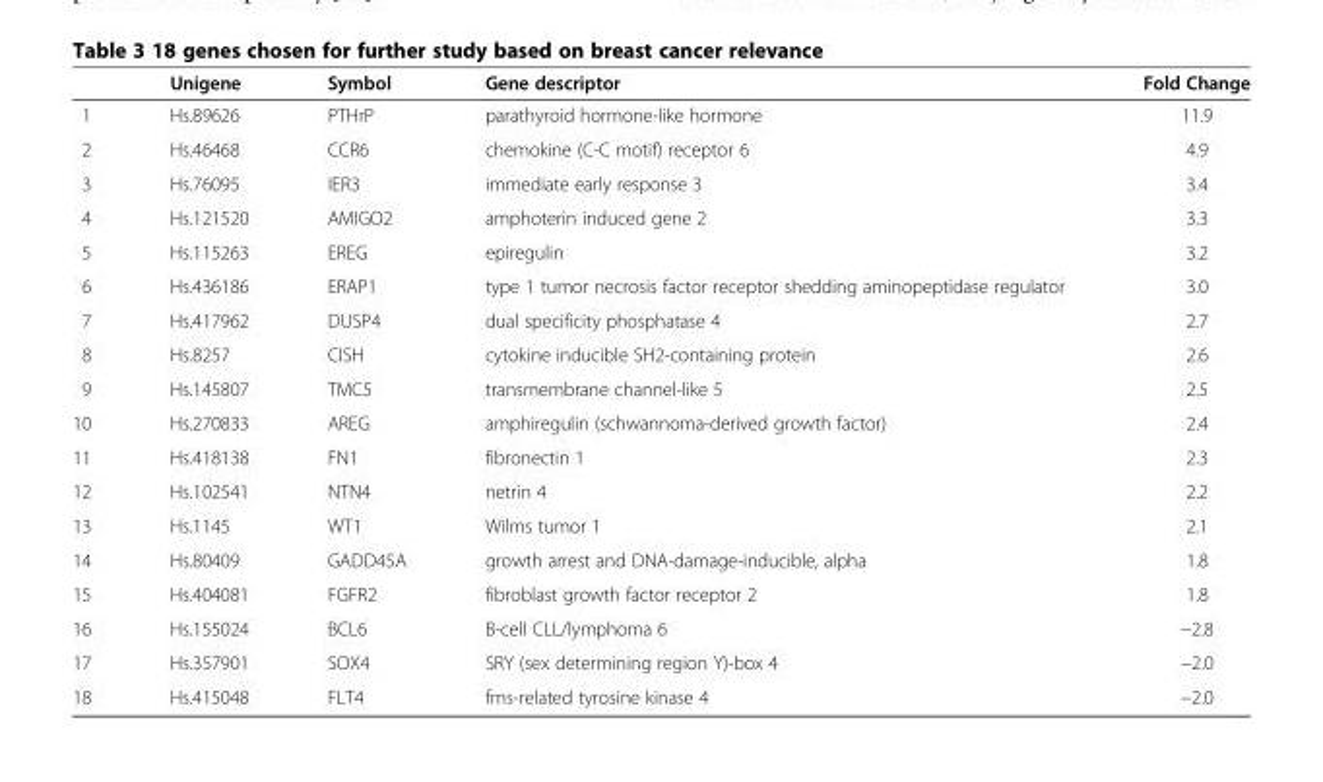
<table><thead><tr><td></td><td>Unigene</td><td>Symbol</td><td>Gene descriptor</td><td>Fold Change</td></tr></thead><tbody><tr><td>1</td><td>Hs.89626</td><td>PTHrP</td><td>parathyroid hormone-like hormone</td><td>11.9</td></tr><tr><td>2</td><td>Hs.46468</td><td>CCR6</td><td>chemokine (C-C motif) receptor 6</td><td>4.9</td></tr><tr><td>3</td><td>Hs.76095</td><td>IER3</td><td>immediate early response 3</td><td>3.4</td></tr><tr><td>4</td><td>Hs.121520</td><td>AMIGO2</td><td>amphoterin induced gene 2</td><td>3.3</td></tr><tr><td>5</td><td>Hs.115263</td><td>EREG</td><td>epiregulin</td><td>3.2</td></tr><tr><td>6</td><td>Hs.436186</td><td>ERAP1</td><td>type 1 tumor necrosis factor receptor shedding aminopeptidase regulator</td><td>3.0</td></tr><tr><td>7</td><td>Hs.417962</td><td>DUSP4</td><td>dual specificity phosphatase 4</td><td>2.7</td></tr><tr><td>8</td><td>Hs.8257</td><td>CISH</td><td>cytokine inducible SH2-containing protein</td><td>2.6</td></tr><tr><td>9</td><td>Hs.145807</td><td>TMC5</td><td>transmembrane channel-like 5</td><td>2.5</td></tr><tr><td>10</td><td>Hs.270833</td><td>AREG</td><td>amphiregulin (schwannoma-derived growth factor)</td><td>2.4</td></tr><tr><td>11</td><td>Hs.418138</td><td>FN1</td><td>fibronectin 1</td><td>2.3</td></tr><tr><td>12</td><td>Hs.102541</td><td>NTN4</td><td>netrin 4</td><td>2.2</td></tr><tr><td>13</td><td>Hs.1145</td><td>WT1</td><td>Wilms tumor 1</td><td>2.1</td></tr><tr><td>14</td><td>Hs.80409</td><td>GADD45A</td><td>growth arrest and DNA-damage-inducible, alpha</td><td>1.8</td></tr><tr><td>15</td><td>Hs.404081</td><td>FGFR2</td><td>fibroblast growth factor receptor 2</td><td>1.8</td></tr><tr><td>16</td><td>Hs.155024</td><td>BCL6</td><td>B-cell CLL/lymphoma 6</td><td>−2.8</td></tr><tr><td>17</td><td>Hs.357901</td><td>SOX4</td><td>SRY (sex determining region Y)-box 4</td><td>−2.0</td></tr><tr><td>18</td><td>Hs.415048</td><td>FLT4</td><td>fms-related tyrosine kinase 4</td><td>−2.0</td></tr></tbody></table>